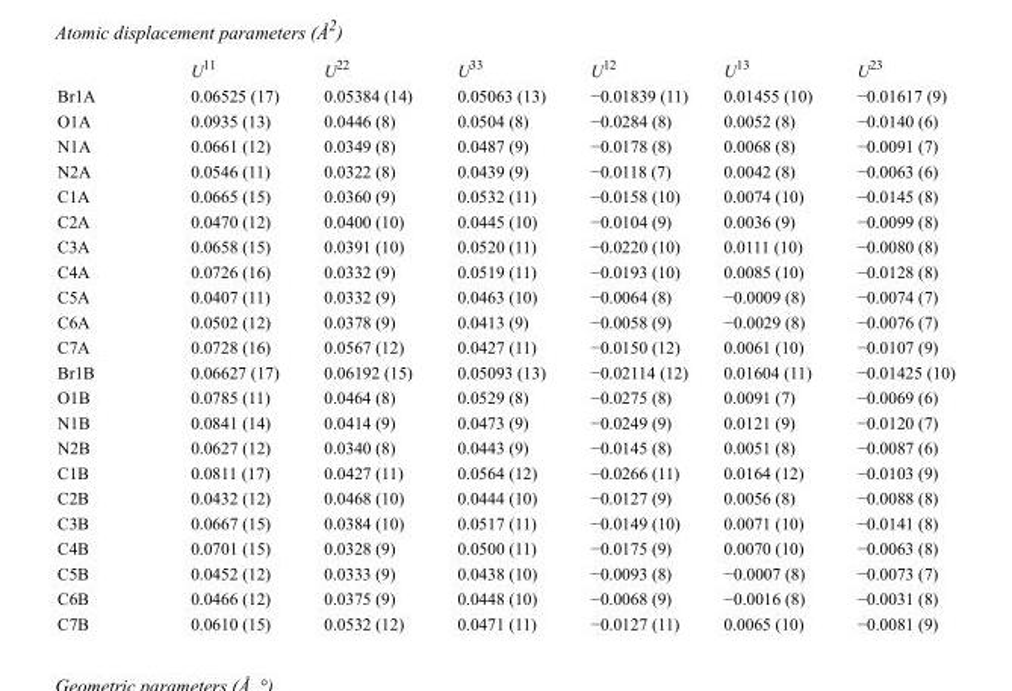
<table><thead><tr><td></td><td>U<sup>11</sup></td><td>U<sup>22</sup></td><td>U<sup>33</sup></td><td>U<sup>12</sup></td><td>U<sup>13</sup></td><td>U<sup>23</sup></td></tr></thead><tbody><tr><td>Br1A</td><td>0.06525 (17)</td><td>0.05384 (14)</td><td>0.05063 (13)</td><td>−0.01839 (11)</td><td>0.01455 (10)</td><td>−0.01617 (9)</td></tr><tr><td>O1A</td><td>0.0935 (13)</td><td>0.0446 (8)</td><td>0.0504 (8)</td><td>−0.0284 (8)</td><td>0.0052 (8)</td><td>−0.0140 (6)</td></tr><tr><td>N1A</td><td>0.0661 (12)</td><td>0.0349 (8)</td><td>0.0487 (9)</td><td>−0.0178 (8)</td><td>0.0068 (8)</td><td>−0.0091 (7)</td></tr><tr><td>N2A</td><td>0.0546 (11)</td><td>0.0322 (8)</td><td>0.0439 (9)</td><td>−0.0118 (7)</td><td>0.0042 (8)</td><td>−0.0063 (6)</td></tr><tr><td>C1A</td><td>0.0665 (15)</td><td>0.0360 (9)</td><td>0.0532 (11)</td><td>−0.0158 (10)</td><td>0.0074 (10)</td><td>−0.0145 (8)</td></tr><tr><td>C2A</td><td>0.0470 (12)</td><td>0.0400 (10)</td><td>0.0445 (10)</td><td>−0.0104 (9)</td><td>0.0036 (9)</td><td>−0.0099 (8)</td></tr><tr><td>C3A</td><td>0.0658 (15)</td><td>0.0391 (10)</td><td>0.0520 (11)</td><td>−0.0220 (10)</td><td>0.0111 (10)</td><td>−0.0080 (8)</td></tr><tr><td>C4A</td><td>0.0726 (16)</td><td>0.0332 (9)</td><td>0.0519 (11)</td><td>−0.0193 (10)</td><td>0.0085 (10)</td><td>−0.0128 (8)</td></tr><tr><td>C5A</td><td>0.0407 (11)</td><td>0.0332 (9)</td><td>0.0463 (10)</td><td>−0.0064 (8)</td><td>−0.0009 (8)</td><td>−0.0074 (7)</td></tr><tr><td>C6A</td><td>0.0502 (12)</td><td>0.0378 (9)</td><td>0.0413 (9)</td><td>−0.0058 (9)</td><td>−0.0029 (8)</td><td>−0.0076 (7)</td></tr><tr><td>C7A</td><td>0.0728 (16)</td><td>0.0567 (12)</td><td>0.0427 (11)</td><td>−0.0150 (12)</td><td>0.0061 (10)</td><td>−0.0107 (9)</td></tr><tr><td>Br1B</td><td>0.06627 (17)</td><td>0.06192 (15)</td><td>0.05093 (13)</td><td>−0.02114 (12)</td><td>0.01604 (11)</td><td>−0.01425 (10)</td></tr><tr><td>O1B</td><td>0.0785 (11)</td><td>0.0464 (8)</td><td>0.0529 (8)</td><td>−0.0275 (8)</td><td>0.0091 (7)</td><td>−0.0069 (6)</td></tr><tr><td>N1B</td><td>0.0841 (14)</td><td>0.0414 (9)</td><td>0.0473 (9)</td><td>−0.0249 (9)</td><td>0.0121 (9)</td><td>−0.0120 (7)</td></tr><tr><td>N2B</td><td>0.0627 (12)</td><td>0.0340 (8)</td><td>0.0443 (9)</td><td>−0.0145 (8)</td><td>0.0051 (8)</td><td>−0.0087 (6)</td></tr><tr><td>C1B</td><td>0.0811 (17)</td><td>0.0427 (11)</td><td>0.0564 (12)</td><td>−0.0266 (11)</td><td>0.0164 (12)</td><td>−0.0103 (9)</td></tr><tr><td>C2B</td><td>0.0432 (12)</td><td>0.0468 (10)</td><td>0.0444 (10)</td><td>−0.0127 (9)</td><td>0.0056 (8)</td><td>−0.0088 (8)</td></tr><tr><td>C3B</td><td>0.0667 (15)</td><td>0.0384 (10)</td><td>0.0517 (11)</td><td>−0.0149 (10)</td><td>0.0071 (10)</td><td>−0.0141 (8)</td></tr><tr><td>C4B</td><td>0.0701 (15)</td><td>0.0328 (9)</td><td>0.0500 (11)</td><td>−0.0175 (9)</td><td>0.0070 (10)</td><td>−0.0063 (8)</td></tr><tr><td>C5B</td><td>0.0452 (12)</td><td>0.0333 (9)</td><td>0.0438 (10)</td><td>−0.0093 (8)</td><td>−0.0007 (8)</td><td>−0.0073 (7)</td></tr><tr><td>C6B</td><td>0.0466 (12)</td><td>0.0375 (9)</td><td>0.0448 (10)</td><td>−0.0068 (9)</td><td>−0.0016 (8)</td><td>−0.0031 (8)</td></tr><tr><td>C7B</td><td>0.0610 (15)</td><td>0.0532 (12)</td><td>0.0471 (11)</td><td>−0.0127 (11)</td><td>0.0065 (10)</td><td>−0.0081 (9)</td></tr></tbody></table>